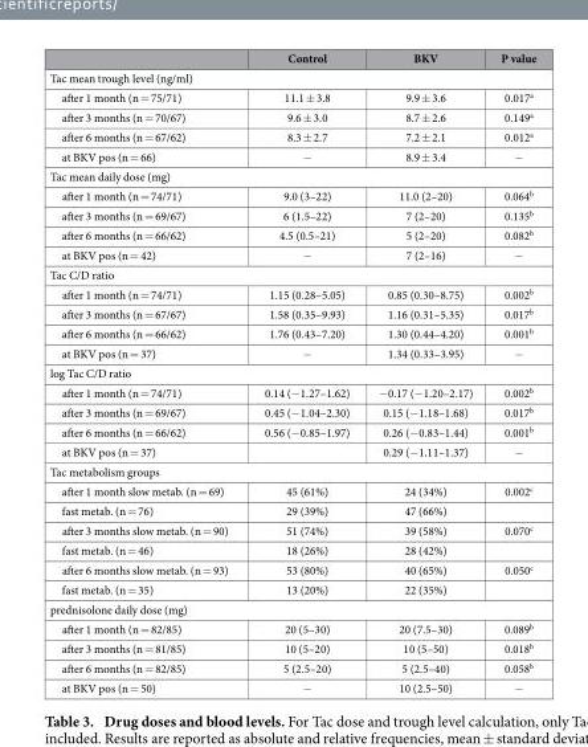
<table><thead><tr><td></td><td>Control</td><td>BKV</td><td>P value</td></tr></thead><tbody><tr><td colspan="4">Tac mean trough level (ng/ml)</td></tr><tr><td>after 1 month (n = 75/71)</td><td>11.1 ± 3.8</td><td>9.9 ± 3.6</td><td>0.017<sup>a</sup></td></tr><tr><td>after 3 months (n = 70/67)</td><td>9.6 ± 3.0</td><td>8.7 ± 2.6</td><td>0.149<sup>a</sup></td></tr><tr><td>after 6 months (n = 67/62)</td><td>8.3 ± 2.7</td><td>7.2 ± 2.1</td><td>0.012<sup>a</sup></td></tr><tr><td>at BKV pos (n = 66)</td><td>−</td><td>8.9 ± 3.4</td><td>−</td></tr><tr><td colspan="4">Tac mean daily dose (mg)</td></tr><tr><td>after 1 month (n = 74/71)</td><td>9.0 (3–22)</td><td>11.0 (2–20)</td><td>0.064<sup>b</sup></td></tr><tr><td>after 3 months (n = 69/67)</td><td>6 (1.5–22)</td><td>7 (2–20)</td><td>0.135<sup>b</sup></td></tr><tr><td>after 6 months (n = 66/62)</td><td>4.5 (0.5–21)</td><td>5 (2–20)</td><td>0.082<sup>b</sup></td></tr><tr><td>at BKV pos (n = 42)</td><td>−</td><td>7 (2–16)</td><td>−</td></tr><tr><td colspan="4">Tac C/D ratio</td></tr><tr><td>after 1 month (n = 74/71)</td><td>1.15 (0.28–5.05)</td><td>0.85 (0.30–8.75)</td><td>0.002<sup>b</sup></td></tr><tr><td>after 3 months (n = 67/67)</td><td>1.58 (0.35–9.93)</td><td>1.16 (0.31–5.35)</td><td>0.017<sup>b</sup></td></tr><tr><td>after 6 months (n = 66/62)</td><td>1.76 (0.43–7.20)</td><td>1.30 (0.44–4.20)</td><td>0.001<sup>b</sup></td></tr><tr><td>at BKV pos (n = 37)</td><td>−</td><td>1.34 (0.33–3.95)</td><td>−</td></tr><tr><td colspan="4">log Tac C/D ratio</td></tr><tr><td>after 1 month (n = 74/71)</td><td>0.14 (− 1.27–1.62)</td><td>−0.17 (− 1.20–2.17)</td><td>0.002<sup>b</sup></td></tr><tr><td>after 3 months (n = 69/67)</td><td>0.45 (− 1.04–2.30)</td><td>0.15 (− 1.18–1.68)</td><td>0.017<sup>b</sup></td></tr><tr><td>after 6 months (n = 66/62)</td><td>0.56 (− 0.85–1.97)</td><td>0.26 (− 0.83–1.44)</td><td>0.001<sup>b</sup></td></tr><tr><td>at BKV pos (n = 37)</td><td></td><td>0.29 (− 1.11–1.37)</td><td>−</td></tr><tr><td colspan="4">Tac metabolism groups</td></tr><tr><td>after 1 month slow metab. (n = 69)</td><td>45 (61%)</td><td>24 (34%)</td><td>0.002<sup>c</sup></td></tr><tr><td>fast metab. (n = 76)</td><td>29 (39%)</td><td>47 (66%)</td><td></td></tr><tr><td>after 3 months slow metab. (n = 90)</td><td>51 (74%)</td><td>39 (58%)</td><td>0.070<sup>c</sup></td></tr><tr><td>fast metab. (n = 46)</td><td>18 (26%)</td><td>28 (42%)</td><td></td></tr><tr><td>after 6 months slow metab. (n = 93)</td><td>53 (80%)</td><td>40 (65%)</td><td>0.050<sup>c</sup></td></tr><tr><td>fast metab. (n = 35)</td><td>13 (20%)</td><td>22 (35%)</td><td></td></tr><tr><td colspan="4">prednisolone daily dose (mg)</td></tr><tr><td>after 1 month (n = 82/85)</td><td>20 (5–30)</td><td>20 (7.5–30)</td><td>0.089<sup>b</sup></td></tr><tr><td>after 3 months (n = 81/85)</td><td>10 (5–20)</td><td>10 (5–50)</td><td>0.018<sup>b</sup></td></tr><tr><td>after 6 months (n = 82/85)</td><td>5 (2.5–20)</td><td>5 (2.5–40)</td><td>0.058<sup>b</sup></td></tr><tr><td>at BKV pos (n = 50)</td><td>−</td><td>10 (2.5–50)</td><td>−</td></tr></tbody></table>